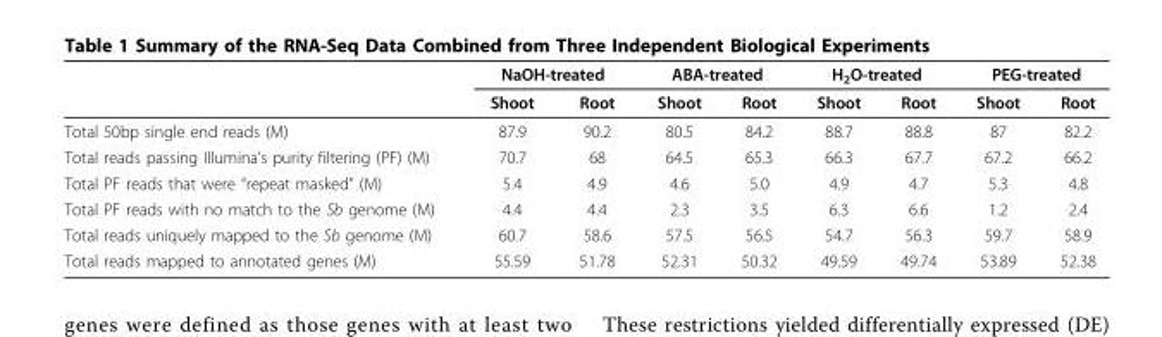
<table><thead><tr><td rowspan="2"></td><td colspan="2">NaOH-treated</td><td colspan="2">ABA-treated</td><td colspan="2">H<sub>2</sub>O-treated</td><td colspan="2">PEG-treated</td></tr><tr><td>Shoot</td><td>Root</td><td>Shoot</td><td>Root</td><td>Shoot</td><td>Root</td><td>Shoot</td><td>Root</td></tr></thead><tbody><tr><td>Total 50bp single end reads (M)</td><td>87.9</td><td>90.2</td><td>80.5</td><td>84.2</td><td>88.7</td><td>88.8</td><td>87</td><td>82.2</td></tr><tr><td>Total reads passing Illumina’s purity filtering (PF) (M)</td><td>70.7</td><td>68</td><td>64.5</td><td>65.3</td><td>66.3</td><td>67.7</td><td>67.2</td><td>66.2</td></tr><tr><td>Total PF reads that were “repeat masked” (M)</td><td>5.4</td><td>4.9</td><td>4.6</td><td>5.0</td><td>4.9</td><td>4.7</td><td>5.3</td><td>4.8</td></tr><tr><td>Total PF reads with no match to the Sb genome (M)</td><td>4.4</td><td>4.4</td><td>2.3</td><td>3.5</td><td>6.3</td><td>6.6</td><td>1.2</td><td>2.4</td></tr><tr><td>Total reads uniquely mapped to the Sb genome (M)</td><td>60.7</td><td>58.6</td><td>57.5</td><td>56.5</td><td>54.7</td><td>56.3</td><td>59.7</td><td>58.9</td></tr><tr><td>Total reads mapped to annotated genes (M)</td><td>55.59</td><td>51.78</td><td>52.31</td><td>50.32</td><td>49.59</td><td>49.74</td><td>53.89</td><td>52.38</td></tr></tbody></table>